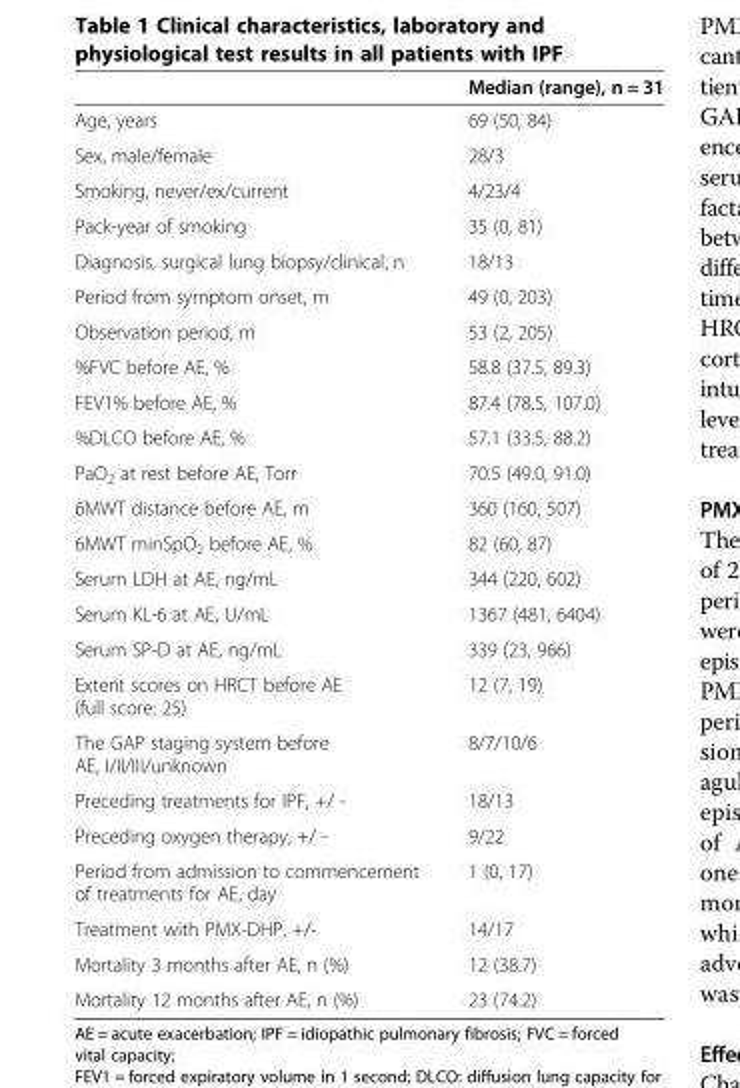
<table><thead><tr><td></td><td>Median (range), n = 31</td></tr></thead><tbody><tr><td>Age, years</td><td>69 (50, 84)</td></tr><tr><td>Sex, male/female</td><td>28/3</td></tr><tr><td>Smoking, never/ex/current</td><td>4/23/4</td></tr><tr><td>Pack-year of smoking</td><td>35 (0, 81)</td></tr><tr><td>Diagnosis, surgical lung biopsy/clinical, n</td><td>18/13</td></tr><tr><td>Period from symptom onset, m</td><td>49 (0, 203)</td></tr><tr><td>Observation period, m</td><td>53 (2, 205)</td></tr><tr><td>%FVC before AE, %</td><td>58.8 (37.5, 89.3)</td></tr><tr><td>FEV1% before AE, %</td><td>87.4 (78.5, 107.0)</td></tr><tr><td>%DLCO before AE, %</td><td>57.1 (33.5, 88.2)</td></tr><tr><td>PaO<sub>2</sub> at rest before AE, Torr</td><td>70.5 (49.0, 91.0)</td></tr><tr><td>6MWT distance before AE, m</td><td>360 (160, 507)</td></tr><tr><td>6MWT minSpO<sub>2</sub> before AE, %</td><td>82 (60, 87)</td></tr><tr><td>Serum LDH at AE, ng/mL</td><td>344 (220, 602)</td></tr><tr><td>Serum KL-6 at AE, U/mL</td><td>1367 (481, 6404)</td></tr><tr><td>Serum SP-D at AE, ng/mL</td><td>339 (23, 966)</td></tr><tr><td>Extent scores on HRCT before AE (full score: 25)</td><td>12 (7, 19)</td></tr><tr><td>The GAP staging system before AE, I/II/III/unknown</td><td>8/7/10/6</td></tr><tr><td>Preceding treatments for IPF, +/ -</td><td>18/13</td></tr><tr><td>Preceding oxygen therapy, +/ -</td><td>9/22</td></tr><tr><td>Period from admission to commencement of treatments for AE, day</td><td>1 (0, 17)</td></tr><tr><td>Treatment with PMX-DHP, +/-</td><td>14/17</td></tr><tr><td>Mortality 3 months after AE, n (%)</td><td>12 (38.7)</td></tr><tr><td>Mortality 12 months after AE, n (%)</td><td>23 (74.2)</td></tr></tbody></table>